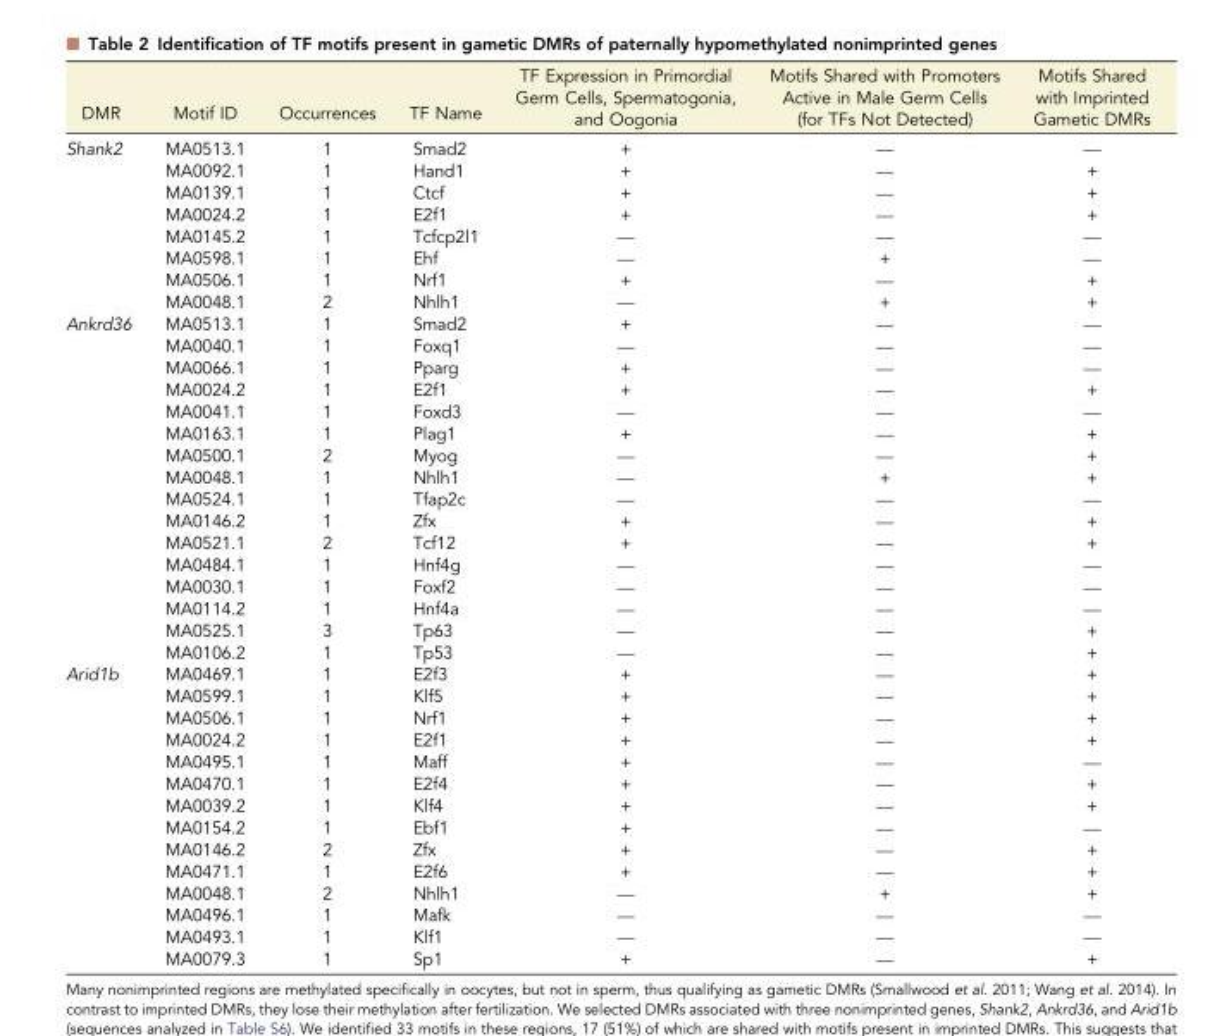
<table><thead><tr><td>DMR</td><td>Motif ID</td><td>Occurrences</td><td>TF Name</td><td>TF Expression in Primordial Germ Cells, Spermatogonia, and Oogonia</td><td>Motifs Shared with Promoters Active in Male Germ Cells (for TFs Not Detected)</td><td>Motifs Shared with Imprinted Gametic DMRs</td></tr></thead><tbody><tr><td rowspan="8">Shank2</td><td>MA0513.1</td><td>1</td><td>Smad2</td><td>+</td><td>—</td><td>—</td></tr><tr><td>MA0092.1</td><td>1</td><td>Hand1</td><td>+</td><td>—</td><td>+</td></tr><tr><td>MA0139.1</td><td>1</td><td>Ctcf</td><td>+</td><td>—</td><td>+</td></tr><tr><td>MA0024.2</td><td>1</td><td>E2f1</td><td>+</td><td>—</td><td>+</td></tr><tr><td>MA0145.2</td><td>1</td><td>Tcfcp2l1</td><td>—</td><td>—</td><td>—</td></tr><tr><td>MA0598.1</td><td>1</td><td>Ehf</td><td>—</td><td>+</td><td>—</td></tr><tr><td>MA0506.1</td><td>1</td><td>Nrf1</td><td>+</td><td>—</td><td>+</td></tr><tr><td>MA0048.1</td><td>2</td><td>Nhlh1</td><td>—</td><td>+</td><td>+</td></tr><tr><td rowspan="16">Ankrd36</td><td>MA0513.1</td><td>1</td><td>Smad2</td><td>+</td><td>—</td><td>—</td></tr><tr><td>MA0040.1</td><td>1</td><td>Foxq1</td><td>—</td><td>—</td><td>—</td></tr><tr><td>MA0066.1</td><td>1</td><td>Pparg</td><td>+</td><td>—</td><td>—</td></tr><tr><td>MA0024.2</td><td>1</td><td>E2f1</td><td>+</td><td>—</td><td>+</td></tr><tr><td>MA0041.1</td><td>1</td><td>Foxd3</td><td>—</td><td>—</td><td>—</td></tr><tr><td>MA0163.1</td><td>1</td><td>Plag1</td><td>+</td><td>—</td><td>+</td></tr><tr><td>MA0500.1</td><td>2</td><td>Myog</td><td>—</td><td>—</td><td>+</td></tr><tr><td>MA0048.1</td><td>1</td><td>Nhlh1</td><td>—</td><td>+</td><td>+</td></tr><tr><td>MA0524.1</td><td>1</td><td>Tfap2c</td><td>—</td><td>—</td><td>—</td></tr><tr><td>MA0146.2</td><td>1</td><td>Zfx</td><td>+</td><td>—</td><td>+</td></tr><tr><td>MA0521.1</td><td>2</td><td>Tcf12</td><td>+</td><td>—</td><td>+</td></tr><tr><td>MA0484.1</td><td>1</td><td>Hnf4g</td><td>—</td><td>—</td><td>—</td></tr><tr><td>MA0030.1</td><td>1</td><td>Foxf2</td><td>—</td><td>—</td><td>—</td></tr><tr><td>MA0114.2</td><td>1</td><td>Hnf4a</td><td>—</td><td>—</td><td>—</td></tr><tr><td>MA0525.1</td><td>3</td><td>Tp63</td><td>—</td><td>—</td><td>+</td></tr><tr><td>MA0106.2</td><td>1</td><td>Tp53</td><td>—</td><td>—</td><td>+</td></tr><tr><td rowspan="14">Arid1b</td><td>MA0469.1</td><td>1</td><td>E2f3</td><td>+</td><td>—</td><td>+</td></tr><tr><td>MA0599.1</td><td>1</td><td>Klf5</td><td>+</td><td>—</td><td>+</td></tr><tr><td>MA0506.1</td><td>1</td><td>Nrf1</td><td>+</td><td>—</td><td>+</td></tr><tr><td>MA0024.2</td><td>1</td><td>E2f1</td><td>+</td><td>—</td><td>+</td></tr><tr><td>MA0495.1</td><td>1</td><td>Maff</td><td>+</td><td>—</td><td>—</td></tr><tr><td>MA0470.1</td><td>1</td><td>E2f4</td><td>+</td><td>—</td><td>+</td></tr><tr><td>MA0039.2</td><td>1</td><td>Klf4</td><td>+</td><td>—</td><td>+</td></tr><tr><td>MA0154.2</td><td>1</td><td>Ebf1</td><td>+</td><td>—</td><td>—</td></tr><tr><td>MA0146.2</td><td>2</td><td>Zfx</td><td>+</td><td>—</td><td>+</td></tr><tr><td>MA0471.1</td><td>1</td><td>E2f6</td><td>+</td><td>—</td><td>+</td></tr><tr><td>MA0048.1</td><td>2</td><td>Nhlh1</td><td>—</td><td>+</td><td>+</td></tr><tr><td>MA0496.1</td><td>1</td><td>Mafk</td><td>—</td><td>—</td><td>—</td></tr><tr><td>MA0493.1</td><td>1</td><td>Klf1</td><td>—</td><td>—</td><td>—</td></tr><tr><td>MA0079.3</td><td>1</td><td>Sp1</td><td>+</td><td>—</td><td>+</td></tr></tbody></table>